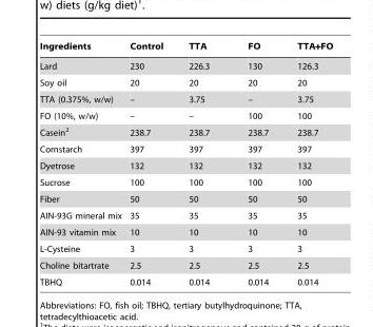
<table><thead><tr><td>Ingredients</td><td>Control</td><td>TTA</td><td>FO</td><td>TTA+FO</td></tr></thead><tbody><tr><td>Lard</td><td>230</td><td>226.3</td><td>130</td><td>126.3</td></tr><tr><td>Soy oil</td><td>20</td><td>20</td><td>20</td><td>20</td></tr><tr><td>TTA (0.375%, w/w)</td><td>–</td><td>3.75</td><td>–</td><td>3.75</td></tr><tr><td>FO (10%, w/w)</td><td>–</td><td>–</td><td>100</td><td>100</td></tr><tr><td>Casein<sup>2</sup></td><td>238.7</td><td>238.7</td><td>238.7</td><td>238.7</td></tr><tr><td>Cornstarch</td><td>397</td><td>397</td><td>397</td><td>397</td></tr><tr><td>Dyetrose</td><td>132</td><td>132</td><td>132</td><td>132</td></tr><tr><td>Sucrose</td><td>100</td><td>100</td><td>100</td><td>100</td></tr><tr><td>Fiber</td><td>50</td><td>50</td><td>50</td><td>50</td></tr><tr><td>AIN-93G mineral mix</td><td>35</td><td>35</td><td>35</td><td>35</td></tr><tr><td>AIN-93 vitamin mix</td><td>10</td><td>10</td><td>10</td><td>10</td></tr><tr><td>L-Cysteine</td><td>3</td><td>3</td><td>3</td><td>3</td></tr><tr><td>Choline bitartrate</td><td>2.5</td><td>2.5</td><td>2.5</td><td>2.5</td></tr><tr><td>TBHQ</td><td>0.014</td><td>0.014</td><td>0.014</td><td>0.014</td></tr></tbody></table>